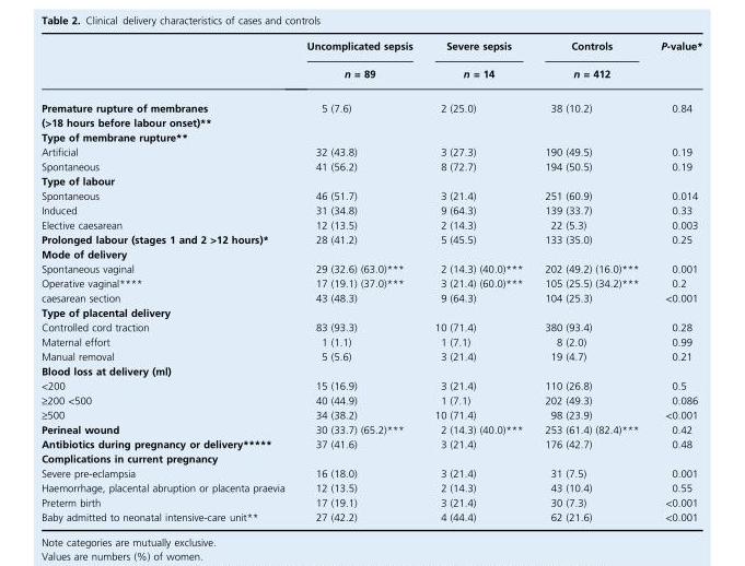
<table><thead><tr><td rowspan="2"></td><td rowspan="2">Uncomplicated sepsis n = 89</td><td rowspan="2">Severe sepsis n = 14</td><td rowspan="2">Controls n = 412</td><td rowspan="2">P-value*</td></tr><tr></tr></thead><tbody><tr><td>Premature rupture of membranes (&gt;18 hours before labour onset)**</td><td>5 (7.6)</td><td>2 (25.0)</td><td>38 (10.2)</td><td>0.84</td></tr><tr><td colspan="5">Type of membrane rupture**</td></tr><tr><td>Artificial</td><td>32 (43.8)</td><td>3 (27.3)</td><td>190 (49.5)</td><td>0.19</td></tr><tr><td>Spontaneous</td><td>41 (56.2)</td><td>8 (72.7)</td><td>194 (50.5)</td><td>0.19</td></tr><tr><td colspan="5">Type of labour</td></tr><tr><td>Spontaneous</td><td>46 (51.7)</td><td>3 (21.4)</td><td>251 (60.9)</td><td>0.014</td></tr><tr><td>Induced</td><td>31 (34.8)</td><td>9 (64.3)</td><td>139 (33.7)</td><td>0.33</td></tr><tr><td>Elective caesarean</td><td>12 (13.5)</td><td>2 (14.3)</td><td>22 (5.3)</td><td>0.003</td></tr><tr><td>Prolonged labour (stages 1 and 2 &gt;12 hours)*</td><td>28 (41.2)</td><td>5 (45.5)</td><td>133 (35.0)</td><td>0.25</td></tr><tr><td colspan="5">Mode of delivery</td></tr><tr><td>Spontaneous vaginal</td><td>29 (32.6) (63.0)***</td><td>2 (14.3) (40.0)***</td><td>202 (49.2) (16.0)***</td><td>0.001</td></tr><tr><td>Operative vaginal****</td><td>17 (19.1) (37.0)***</td><td>3 (21.4) (60.0)***</td><td>105 (25.5) (34.2)***</td><td>0.2</td></tr><tr><td>caesarean section</td><td>43 (48.3)</td><td>9 (64.3)</td><td>104 (25.3)</td><td>&lt;0.001</td></tr><tr><td colspan="5">Type of placental delivery</td></tr><tr><td>Controlled cord traction</td><td>83 (93.3)</td><td>10 (71.4)</td><td>380 (93.4)</td><td>0.28</td></tr><tr><td>Maternal effort</td><td>1 (1.1)</td><td>1 (7.1)</td><td>8 (2.0)</td><td>0.99</td></tr><tr><td>Manual removal</td><td>5 (5.6)</td><td>3 (21.4)</td><td>19 (4.7)</td><td>0.21</td></tr><tr><td colspan="5">Blood loss at delivery (ml)</td></tr><tr><td>&lt;200</td><td>15 (16.9)</td><td>3 (21.4)</td><td>110 (26.8)</td><td>0.5</td></tr><tr><td>‡200 &lt;500</td><td>40 (44.9)</td><td>1 (7.1)</td><td>202 (49.3)</td><td>0.086</td></tr><tr><td>‡500</td><td>34 (38.2)</td><td>10 (71.4)</td><td>98 (23.9)</td><td>&lt;0.001</td></tr><tr><td>Perineal wound</td><td>30 (33.7) (65.2)***</td><td>2 (14.3) (40.0)***</td><td>253 (61.4) (82.4)***</td><td>0.42</td></tr><tr><td>Antibiotics during pregnancy or delivery*****</td><td>37 (41.6)</td><td>3 (21.4)</td><td>176 (42.7)</td><td>0.48</td></tr><tr><td colspan="5">Complications in current pregnancy</td></tr><tr><td>Severe pre-eclampsia</td><td>16 (18.0)</td><td>3 (21.4)</td><td>31 (7.5)</td><td>0.001</td></tr><tr><td>Haemorrhage, placental abruption or placenta praevia</td><td>12 (13.5)</td><td>2 (14.3)</td><td>43 (10.4)</td><td>0.55</td></tr><tr><td>Preterm birth</td><td>17 (19.1)</td><td>3 (21.4)</td><td>30 (7.3)</td><td>&lt;0.001</td></tr><tr><td>Baby admitted to neonatal intensive-care unit**</td><td>27 (42.2)</td><td>4 (44.4)</td><td>62 (21.6)</td><td>&lt;0.001</td></tr></tbody></table>